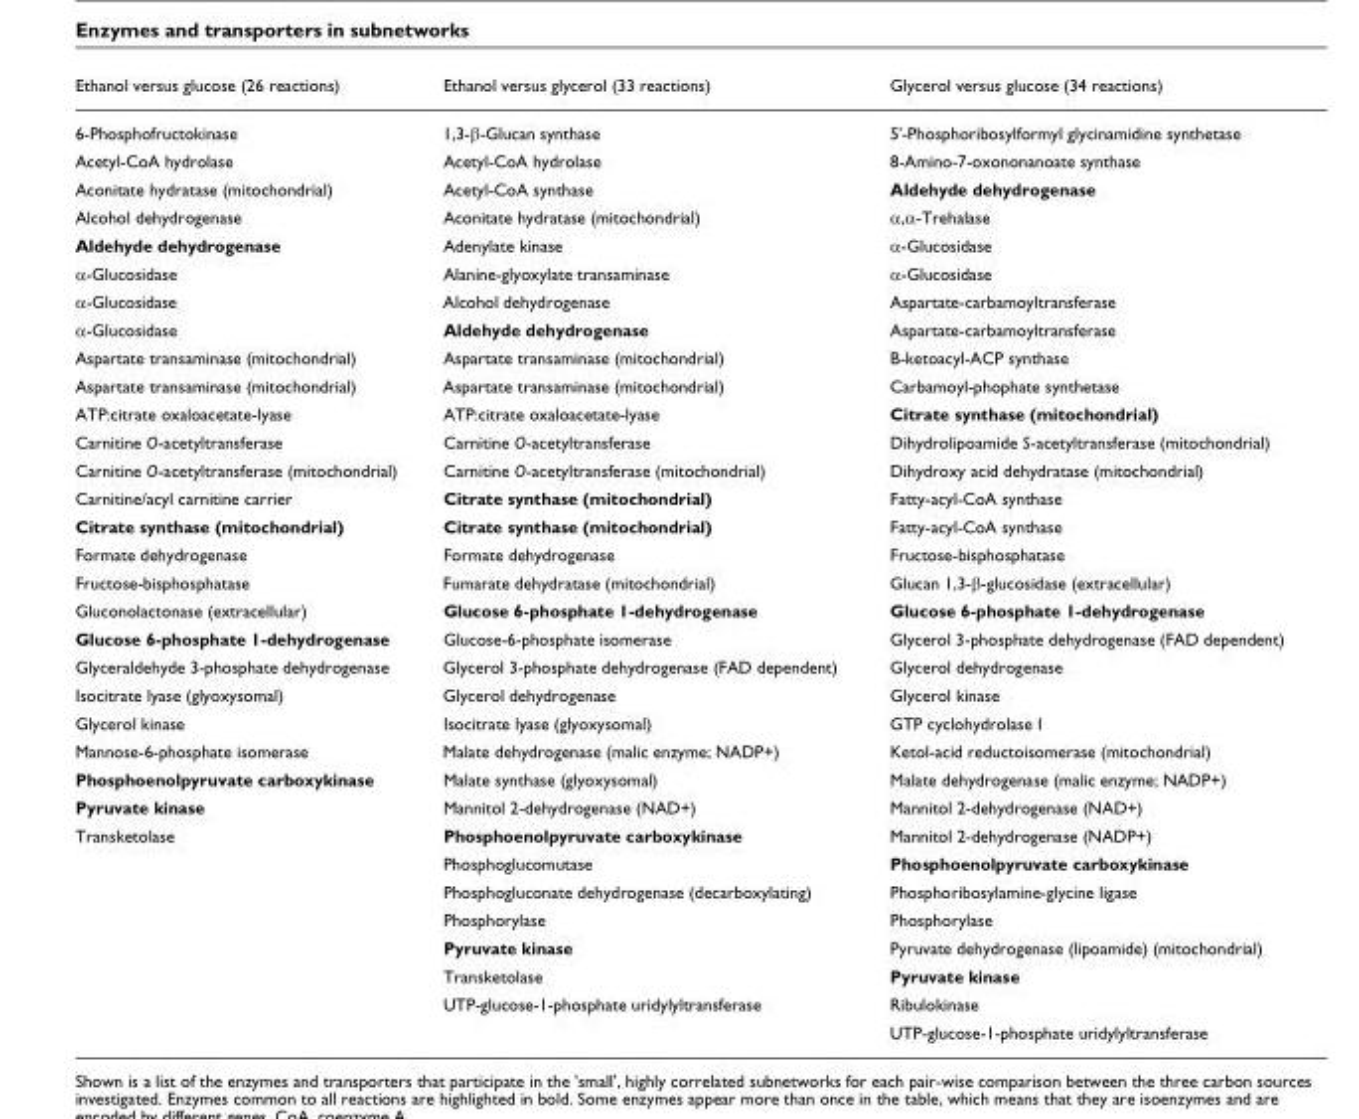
<table><thead><tr><td>Ethanol versus glucose (26 reactions)</td><td>Ethanol versus glycerol (33 reactions)</td><td>Glycerol versus glucose (34 reactions)</td></tr></thead><tbody><tr><td>6-Phosphofructokinase</td><td>1,3-β-Glucan synthase</td><td>5&#x27;-Phosphoribosylformyl glycinamidine synthetase</td></tr><tr><td>Acetyl-CoA hydrolase</td><td>Acetyl-CoA hydrolase</td><td>8-Amino-7-oxononanoate synthase</td></tr><tr><td>Aconitate hydratase (mitochondrial)</td><td>Acetyl-CoA synthase</td><td>Aldehyde dehydrogenase</td></tr><tr><td>Alcohol dehydrogenase</td><td>Aconitate hydratase (mitochondrial)</td><td>α,α-Trehalase</td></tr><tr><td>Aldehyde dehydrogenase</td><td>Adenylate kinase</td><td>α-Glucosidase</td></tr><tr><td>α-Glucosidase</td><td>Alanine-glyoxylate transaminase</td><td>α-Glucosidase</td></tr><tr><td>α-Glucosidase</td><td>Alcohol dehydrogenase</td><td>Aspartate-carbamoyltransferase</td></tr><tr><td>α-Glucosidase</td><td>Aldehyde dehydrogenase</td><td>Aspartate-carbamoyltransferase</td></tr><tr><td>Aspartate transaminase (mitochondrial)</td><td>Aspartate transaminase (mitochondrial)</td><td>B-ketoacyl-ACP synthase</td></tr><tr><td>Aspartate transaminase (mitochondrial)</td><td>Aspartate transaminase (mitochondrial)</td><td>Carbamoyl-phophate synthetase</td></tr><tr><td>ATP:citrate oxaloacetate-lyase</td><td>ATP:citrate oxaloacetate-lyase</td><td>Citrate synthase (mitochondrial)</td></tr><tr><td>Carnitine O-acetyltransferase</td><td>Carnitine O-acetyltransferase</td><td>Dihydrolipoamide S-acetyltransferase (mitochondrial)</td></tr><tr><td>Carnitine O-acetyltransferase (mitochondrial)</td><td>Carnitine O-acetyltransferase (mitochondrial)</td><td>Dihydroxy acid dehydratase (mitochondrial)</td></tr><tr><td>Carnitine/acyl carnitine carrier</td><td>Citrate synthase (mitochondrial)</td><td>Fatty-acyl-CoA synthase</td></tr><tr><td>Citrate synthase (mitochondrial)</td><td>Citrate synthase (mitochondrial)</td><td>Fatty-acyl-CoA synthase</td></tr><tr><td>Formate dehydrogenase</td><td>Formate dehydrogenase</td><td>Fructose-bisphosphatase</td></tr><tr><td>Fructose-bisphosphatase</td><td>Fumarate dehydratase (mitochondrial)</td><td>Glucan 1,3-β-glucosidase (extracellular)</td></tr><tr><td>Gluconolactonase (extracellular)</td><td>Glucose 6-phosphate 1-dehydrogenase</td><td>Glucose 6-phosphate 1-dehydrogenase</td></tr><tr><td>Glucose 6-phosphate 1-dehydrogenase</td><td>Glucose-6-phosphate isomerase</td><td>Glycerol 3-phosphate dehydrogenase (FAD dependent)</td></tr><tr><td>Glyceraldehyde 3-phosphate dehydrogenase</td><td>Glycerol 3-phosphate dehydrogenase (FAD dependent)</td><td>Glycerol dehydrogenase</td></tr><tr><td>Isocitrate lyase (glyoxysomal)</td><td>Glycerol dehydrogenase</td><td>Glycerol kinase</td></tr><tr><td>Glycerol kinase</td><td>Isocitrate lyase (glyoxysomal)</td><td>GTP cyclohydrolase I</td></tr><tr><td>Mannose-6-phosphate isomerase</td><td>Malate dehydrogenase (malic enzyme; NADP+)</td><td>Ketol-acid reductoisomerase (mitochondrial)</td></tr><tr><td>Phosphoenolpyruvate carboxykinase</td><td>Malate synthase (glyoxysomal)</td><td>Malate dehydrogenase (malic enzyme; NADP+)</td></tr><tr><td>Pyruvate kinase</td><td>Mannitol 2-dehydrogenase (NAD+)</td><td>Mannitol 2-dehydrogenase (NAD+)</td></tr><tr><td rowspan="8">Transketolase</td><td>Phosphoenolpyruvate carboxykinase</td><td>Mannitol 2-dehydrogenase (NADP+)</td></tr><tr><td>Phosphoglucomutase</td><td>Phosphoenolpyruvate carboxykinase</td></tr><tr><td>Phosphogluconate dehydrogenase (decarboxylating)</td><td>Phosphoribosylamine-glycine ligase</td></tr><tr><td>Phosphorylase</td><td>Phosphorylase</td></tr><tr><td>Pyruvate kinase</td><td>Pyruvate dehydrogenase (lipoamide) (mitochondrial)</td></tr><tr><td>Transketolase</td><td>Pyruvate kinase</td></tr><tr><td>UTP-glucose-1-phosphate uridylyltransferase</td><td>Ribulokinase</td></tr><tr><td></td><td>UTP-glucose-1-phosphate uridylyltransferase</td></tr></tbody></table>